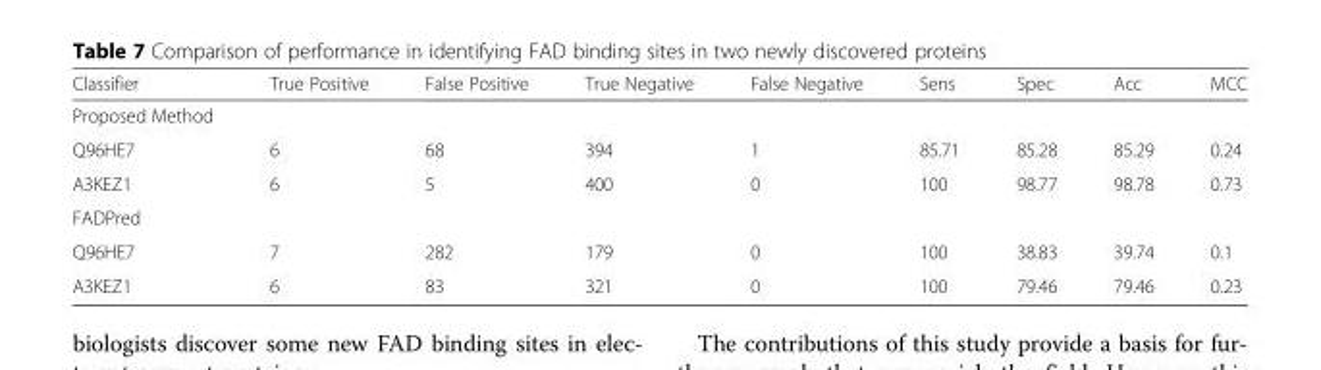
<table><thead><tr><td>Classifier</td><td>True Positive</td><td>False Positive</td><td>True Negative</td><td>False Negative</td><td>Sens</td><td>Spec</td><td>Acc</td><td>MCC</td></tr></thead><tbody><tr><td colspan="9">Proposed Method</td></tr><tr><td>Q96HE7</td><td>6</td><td>68</td><td>394</td><td>1</td><td>85.71</td><td>85.28</td><td>85.29</td><td>0.24</td></tr><tr><td>A3KEZ1</td><td>6</td><td>5</td><td>400</td><td>0</td><td>100</td><td>98.77</td><td>98.78</td><td>0.73</td></tr><tr><td colspan="9">FADPred</td></tr><tr><td>Q96HE7</td><td>7</td><td>282</td><td>179</td><td>0</td><td>100</td><td>38.83</td><td>39.74</td><td>0.1</td></tr><tr><td>A3KEZ1</td><td>6</td><td>83</td><td>321</td><td>0</td><td>100</td><td>79.46</td><td>79.46</td><td>0.23</td></tr></tbody></table>